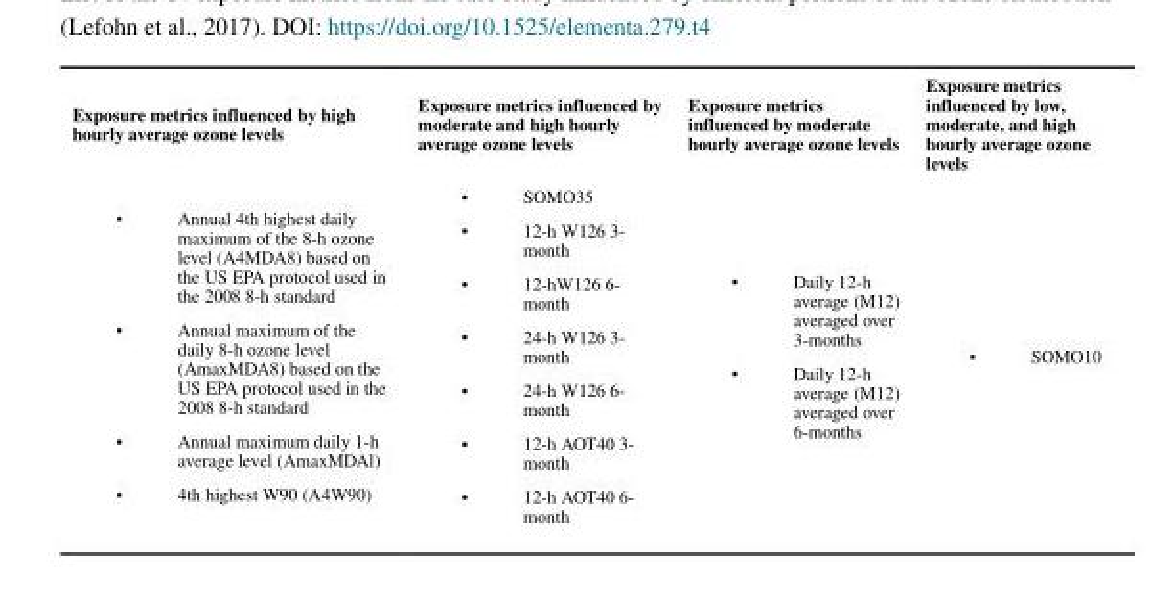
<table><thead><tr><td>Exposure metrics influenced by high hourly average ozone levels</td><td>Exposure metrics influenced by moderate and high hourly average ozone levels</td><td>Exposure metrics influenced by moderate hourly average ozone levels</td><td>Exposure metrics influenced by low, moderate, and high hourly average ozone levels</td></tr></thead><tbody><tr><td>• Annual 4th highest daily maximum of the 8-h ozone level (A4MDA8) based on the US EPA protocol used in the 2008 8-h standard • Annual maximum of the daily 8-h ozone level (AmaxMDA8) based on the US EPA protocol used in the 2008 8-h standard • Annual maximum daily 1-h average level (AmaxMDAl) • 4th highest W90 (A4W90)</td><td>• SOMO35 • 12-h W126 3- month • 12-hW126 6- month • 24-h W126 3- month • 24-h W126 6- month • 12-h AOT40 3- month • 12-h AOT40 6- month</td><td>• Daily 12-h average (M12) averaged over 3-months • Daily 12-h average (M12) averaged over 6-months</td><td>• SOMO10</td></tr></tbody></table>